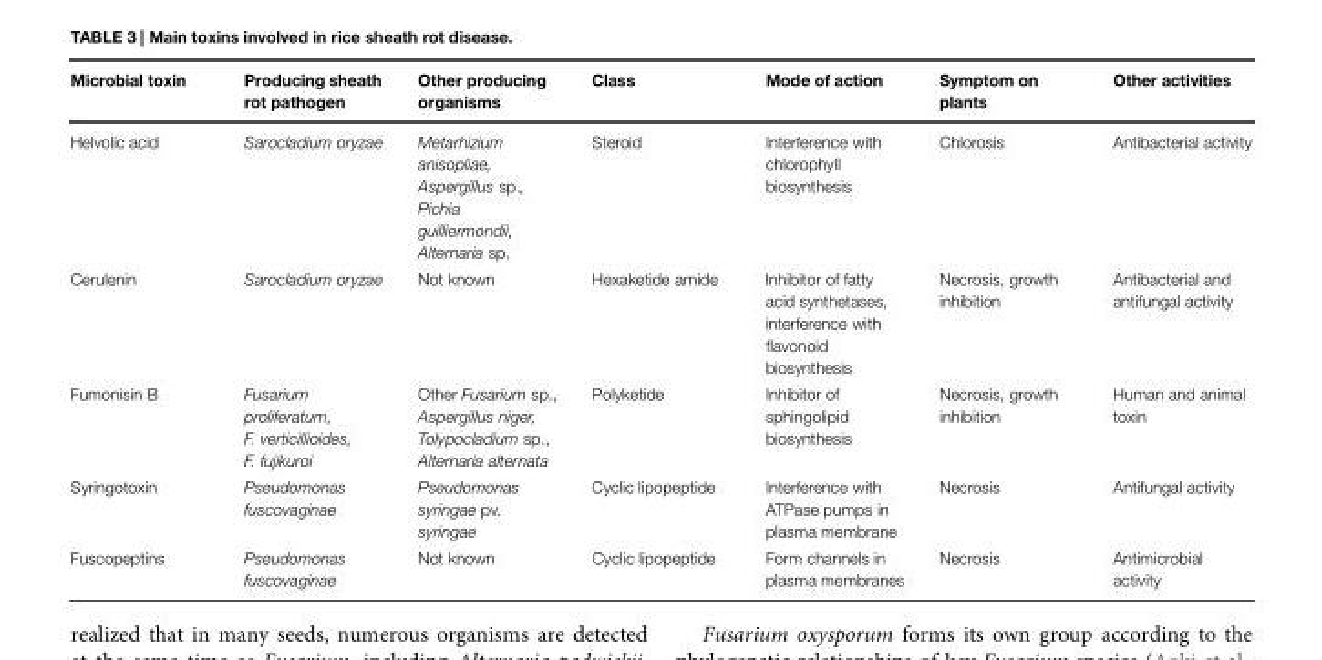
<table><thead><tr><td>Microbial toxin</td><td>Producing sheath rot pathogen</td><td>Other producing organisms</td><td>Class</td><td>Mode of action</td><td>Symptom on plants</td><td>Other activities</td></tr></thead><tbody><tr><td>Helvolic acid</td><td>Sarocladium oryzae</td><td>Metarhizium anisopliae, Aspergillus sp., Pichia guilliermondii, Alternaria sp.</td><td>Steroid</td><td>Interference with chlorophyll biosynthesis</td><td>Chlorosis</td><td>Antibacterial activity</td></tr><tr><td>Cerulenin</td><td>Sarocladium oryzae</td><td>Not known</td><td>Hexaketide amide</td><td>Inhibitor of fatty acid synthetases, interference with flavonoid biosynthesis</td><td>Necrosis, growth inhibition</td><td>Antibacterial and antifungal activity</td></tr><tr><td>Fumonisin B</td><td>Fusarium proliferatum, F. verticillioides, F. fujikuroi</td><td>Other Fusarium sp., Aspergillus niger, Tolypocladium sp., Alternaria alternata</td><td>Polyketide</td><td>Inhibitor of sphingolipid biosynthesis</td><td>Necrosis, growth inhibition</td><td>Human and animal toxin</td></tr><tr><td>Syringotoxin</td><td>Pseudomonas fuscovaginae</td><td>Pseudomonas syringae pv. syringae</td><td>Cyclic lipopeptide</td><td>Interference with ATPase pumps in plasma membrane</td><td>Necrosis</td><td>Antifungal activity</td></tr><tr><td>Fuscopeptins</td><td>Pseudomonas fuscovaginae</td><td>Not known</td><td>Cyclic lipopeptide</td><td>Form channels in plasma membranes</td><td>Necrosis</td><td>Antimicrobial activity</td></tr></tbody></table>